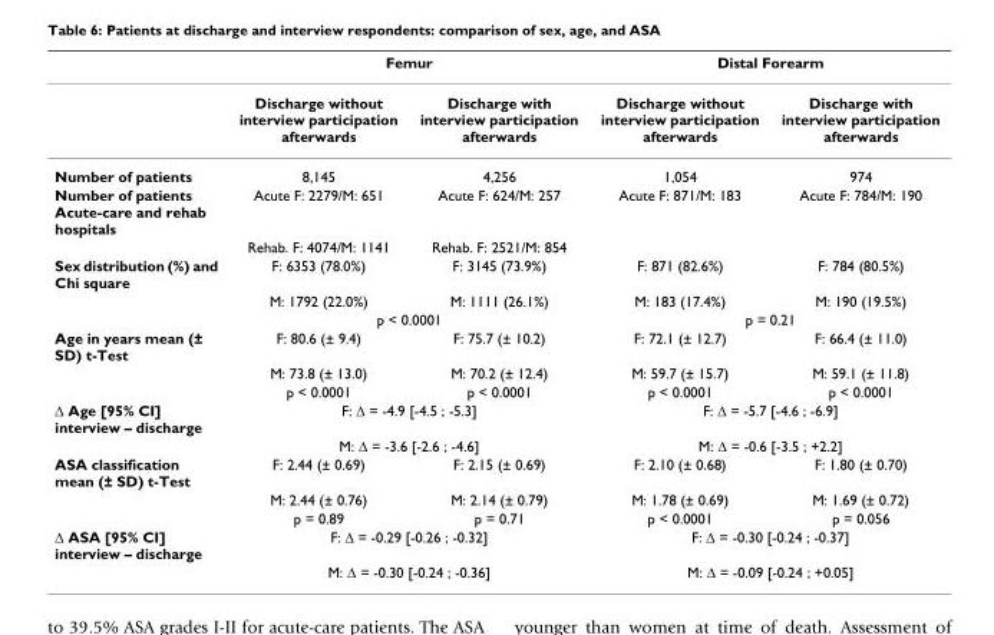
<table><thead><tr><td rowspan="2"></td><td colspan="2">Femur</td><td colspan="2">Distal Forearm</td></tr><tr><td>Discharge without interview participation afterwards</td><td>Discharge with interview participation afterwards</td><td>Discharge without interview participation afterwards</td><td>Discharge with interview participation afterwards</td></tr></thead><tbody><tr><td>Number of patients</td><td>8,145</td><td>4,256</td><td>1,054</td><td>974</td></tr><tr><td rowspan="2">Number of patients Acute-care and rehab hospitals</td><td>Acute F: 2279/M: 651</td><td>Acute F: 624/M: 257</td><td>Acute F: 871/M: 183</td><td>Acute F: 784/M: 190</td></tr><tr><td>Rehab. F: 4074/M: 1141</td><td>Rehab. F: 2521/M: 854</td><td></td><td></td></tr><tr><td rowspan="3">Sex distribution (%) and Chi square</td><td>F: 6353 (78.0%)</td><td>F: 3145 (73.9%)</td><td>F: 871 (82.6%)</td><td>F: 784 (80.5%)</td></tr><tr><td>M: 1792 (22.0%)</td><td>M: 1111 (26.1%)</td><td>M: 183 (17.4%)</td><td>M: 190 (19.5%)</td></tr><tr><td colspan="2">p &lt; 0.0001</td><td colspan="2">p = 0.21</td></tr><tr><td rowspan="3">Age in years mean (± SD) t-Test</td><td>F: 80.6 (± 9.4)</td><td>F: 75.7 (± 10.2)</td><td>F: 72.1 (± 12.7)</td><td>F: 66.4 (± 11.0)</td></tr><tr><td>M: 73.8 (± 13.0)</td><td>M: 70.2 (± 12.4)</td><td>M: 59.7 (± 15.7)</td><td>M: 59.1 (± 11.8)</td></tr><tr><td>p &lt; 0.0001</td><td>p &lt; 0.0001</td><td>p &lt; 0.0001</td><td>p &lt; 0.0001</td></tr><tr><td rowspan="2">Δ Age [95% CI] interview – discharge</td><td colspan="2">F: Δ = -4.9 [-4.5 ; -5.3]</td><td colspan="2">F: Δ = -5.7 [-4.6 ; -6.9]</td></tr><tr><td colspan="2">M: Δ = -3.6 [-2.6 ; -4.6]</td><td colspan="2">M: Δ = -0.6 [-3.5 ; +2.2]</td></tr><tr><td rowspan="3">ASA classification mean (± SD) t-Test</td><td>F: 2.44 (± 0.69)</td><td>F: 2.15 (± 0.69)</td><td>F: 2.10 (± 0.68)</td><td>F: 1.80 (± 0.70)</td></tr><tr><td>M: 2.44 (± 0.76)</td><td>M: 2.14 (± 0.79)</td><td>M: 1.78 (± 0.69)</td><td>M: 1.69 (± 0.72)</td></tr><tr><td>p = 0.89</td><td>p = 0.71</td><td>p &lt; 0.0001</td><td>p = 0.056</td></tr><tr><td rowspan="2">Δ ASA [95% CI] interview – discharge</td><td colspan="2">F: Δ = -0.29 [-0.26 ; -0.32]</td><td colspan="2">F: Δ = -0.30 [-0.24 ; -0.37]</td></tr><tr><td colspan="2">M: Δ = -0.30 [-0.24 ; -0.36]</td><td colspan="2">M: Δ = -0.09 [-0.24 ; +0.05]</td></tr></tbody></table>